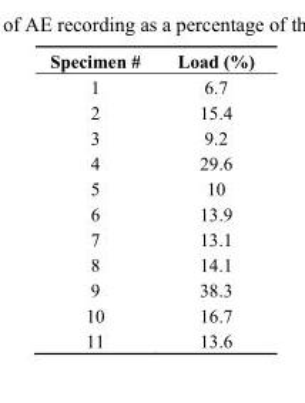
<table><thead><tr><td>Specimen #</td><td>Load (%)</td></tr></thead><tbody><tr><td>1</td><td>6.7</td></tr><tr><td>2</td><td>15.4</td></tr><tr><td>3</td><td>9.2</td></tr><tr><td>4</td><td>29.6</td></tr><tr><td>5</td><td>10</td></tr><tr><td>6</td><td>13.9</td></tr><tr><td>7</td><td>13.1</td></tr><tr><td>8</td><td>14.1</td></tr><tr><td>9</td><td>38.3</td></tr><tr><td>10</td><td>16.7</td></tr><tr><td>11</td><td>13.6</td></tr></tbody></table>